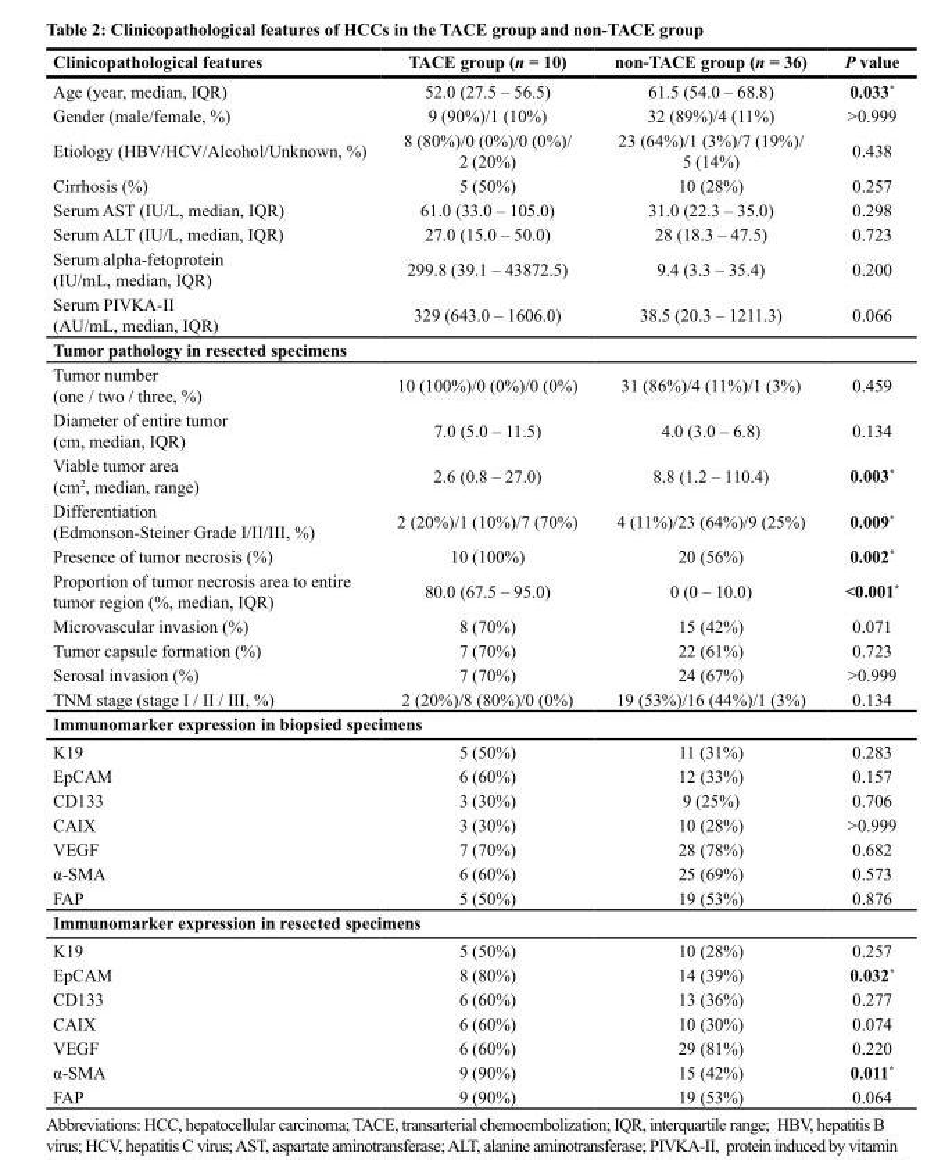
<table><thead><tr><td>Clinicopathological features</td><td>TACE group (n = 10)</td><td>non-TACE group (n = 36)</td><td>P value</td></tr></thead><tbody><tr><td>Age (year, median, IQR)</td><td>52.0 (27.5 – 56.5)</td><td>61.5 (54.0 – 68.8)</td><td>0.033*</td></tr><tr><td>Gender (male/female, %)</td><td>9 (90%)/1 (10%)</td><td>32 (89%)/4 (11%)</td><td>&gt;0.999</td></tr><tr><td>Etiology (HBV/HCV/Alcohol/Unknown, %)</td><td>8 (80%)/0 (0%)/0 (0%)/ 2 (20%)</td><td>23 (64%)/1 (3%)/7 (19%)/ 5 (14%)</td><td>0.438</td></tr><tr><td>Cirrhosis (%)</td><td>5 (50%)</td><td>10 (28%)</td><td>0.257</td></tr><tr><td>Serum AST (IU/L, median, IQR)</td><td>61.0 (33.0 – 105.0)</td><td>31.0 (22.3 – 35.0)</td><td>0.298</td></tr><tr><td>Serum ALT (IU/L, median, IQR)</td><td>27.0 (15.0 – 50.0)</td><td>28 (18.3 – 47.5)</td><td>0.723</td></tr><tr><td>Serum alpha-fetoprotein (IU/mL, median, IQR)</td><td>299.8 (39.1 – 43872.5)</td><td>9.4 (3.3 – 35.4)</td><td>0.200</td></tr><tr><td>Serum PIVKA-II (AU/mL, median, IQR)</td><td>329 (643.0 – 1606.0)</td><td>38.5 (20.3 – 1211.3)</td><td>0.066</td></tr><tr><td colspan="4">Tumor pathology in resected specimens</td></tr><tr><td>Tumor number (one / two / three, %)</td><td>10 (100%)/0 (0%)/0 (0%)</td><td>31 (86%)/4 (11%)/1 (3%)</td><td>0.459</td></tr><tr><td>Diameter of entire tumor (cm, median, IQR)</td><td>7.0 (5.0 – 11.5)</td><td>4.0 (3.0 – 6.8)</td><td>0.134</td></tr><tr><td>Viable tumor area (cm<sup>2</sup>, median, range)</td><td>2.6 (0.8 – 27.0)</td><td>8.8 (1.2 – 110.4)</td><td>0.003*</td></tr><tr><td>Differentiation (Edmonson-Steiner Grade I/II/III, %)</td><td>2 (20%)/1 (10%)/7 (70%)</td><td>4 (11%)/23 (64%)/9 (25%)</td><td>0.009*</td></tr><tr><td>Presence of tumor necrosis (%)</td><td>10 (100%)</td><td>20 (56%)</td><td>0.002*</td></tr><tr><td>Proportion of tumor necrosis area to entire tumor region (%, median, IQR)</td><td>80.0 (67.5 – 95.0)</td><td>0 (0 – 10.0)</td><td>&lt;0.001*</td></tr><tr><td>Microvascular invasion (%)</td><td>8 (70%)</td><td>15 (42%)</td><td>0.071</td></tr><tr><td>Tumor capsule formation (%)</td><td>7 (70%)</td><td>22 (61%)</td><td>0.723</td></tr><tr><td>Serosal invasion (%)</td><td>7 (70%)</td><td>24 (67%)</td><td>&gt;0.999</td></tr><tr><td>TNM stage (stage I / II / III, %)</td><td>2 (20%)/8 (80%)/0 (0%)</td><td>19 (53%)/16 (44%)/1 (3%)</td><td>0.134</td></tr><tr><td colspan="4">Immunomarker expression in biopsied specimens</td></tr><tr><td>K19</td><td>5 (50%)</td><td>11 (31%)</td><td>0.283</td></tr><tr><td>EpCAM</td><td>6 (60%)</td><td>12 (33%)</td><td>0.157</td></tr><tr><td>CD133</td><td>3 (30%)</td><td>9 (25%)</td><td>0.706</td></tr><tr><td>CAIX</td><td>3 (30%)</td><td>10 (28%)</td><td>&gt;0.999</td></tr><tr><td>VEGF</td><td>7 (70%)</td><td>28 (78%)</td><td>0.682</td></tr><tr><td>α-SMA</td><td>6 (60%)</td><td>25 (69%)</td><td>0.573</td></tr><tr><td>FAP</td><td>5 (50%)</td><td>19 (53%)</td><td>0.876</td></tr><tr><td colspan="4">Immunomarker expression in resected specimens</td></tr><tr><td>K19</td><td>5 (50%)</td><td>10 (28%)</td><td>0.257</td></tr><tr><td>EpCAM</td><td>8 (80%)</td><td>14 (39%)</td><td>0.032*</td></tr><tr><td>CD133</td><td>6 (60%)</td><td>13 (36%)</td><td>0.277</td></tr><tr><td>CAIX</td><td>6 (60%)</td><td>10 (30%)</td><td>0.074</td></tr><tr><td>VEGF</td><td>6 (60%)</td><td>29 (81%)</td><td>0.220</td></tr><tr><td>α-SMA</td><td>9 (90%)</td><td>15 (42%)</td><td>0.011*</td></tr><tr><td>FAP</td><td>9 (90%)</td><td>19 (53%)</td><td>0.064</td></tr></tbody></table>